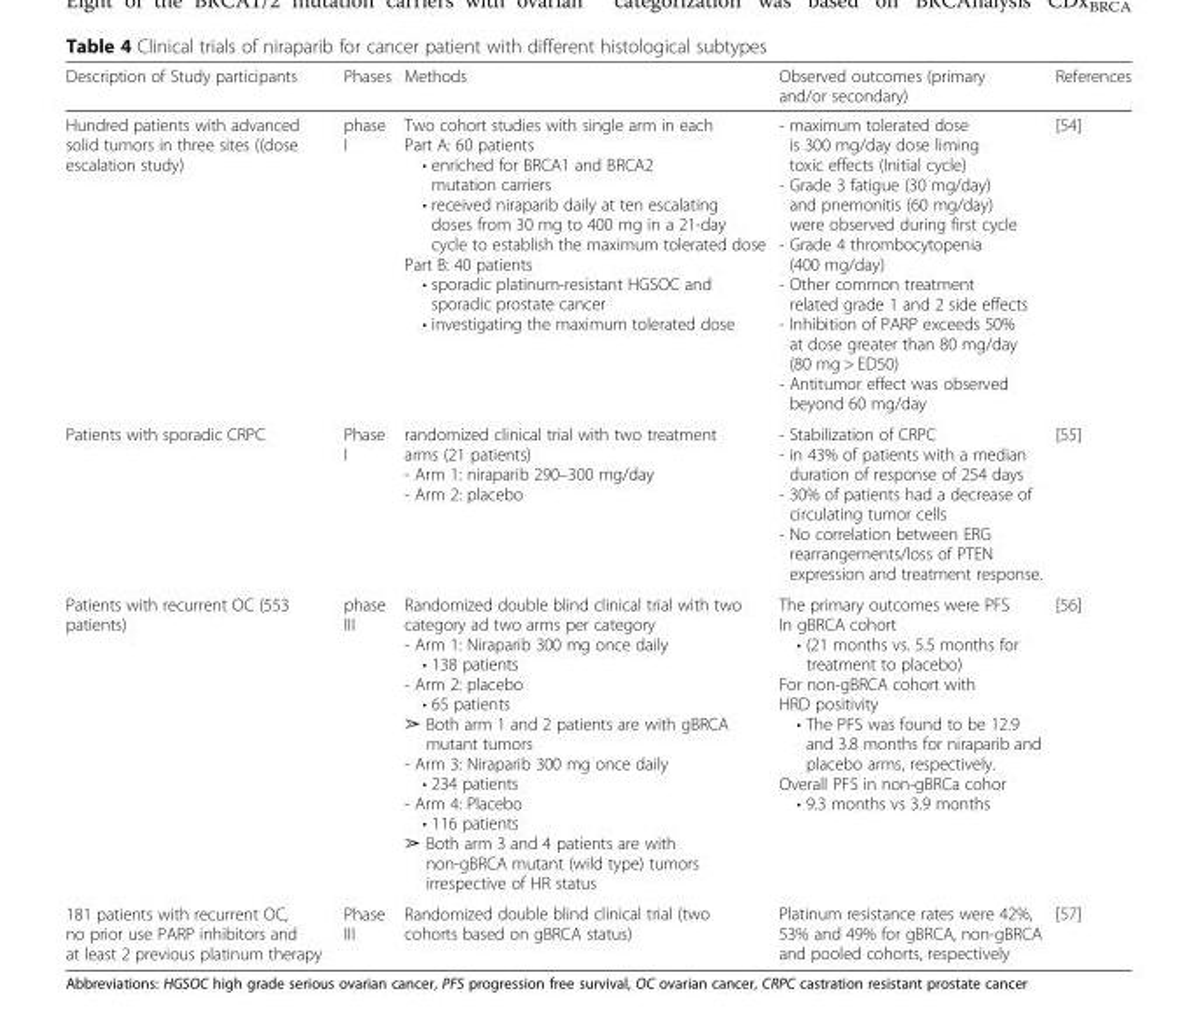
<table><thead><tr><td>Description of Study participants</td><td>Phases</td><td>Methods</td><td>Observed outcomes (primary and/or secondary)</td><td>References</td></tr></thead><tbody><tr><td>Hundred patients with advanced solid tumors in three sites ((dose escalation study)</td><td>phase I</td><td>Two cohort studies with single arm in each Part A: 60 patients • enriched for BRCA1 and BRCA2 mutation carriers • received niraparib daily at ten escalating doses from 30 mg to 400 mg in a 21-day cycle to establish the maximum tolerated dose Part B: 40 patients • sporadic platinum-resistant HGSOC and sporadic prostate cancer • investigating the maximum tolerated dose</td><td>- maximum tolerated dose is 300 mg/day dose liming toxic effects (Initial cycle) - Grade 3 fatigue (30 mg/day) and pnemonitis (60 mg/day) were observed during first cycle - Grade 4 thrombocytopenia (400 mg/day) - Other common treatment related grade 1 and 2 side effects - Inhibition of PARP exceeds 50% at dose greater than 80 mg/day (80 mg &gt; ED50) - Antitumor effect was observed beyond 60 mg/day</td><td>[54]</td></tr><tr><td>Patients with sporadic CRPC</td><td>Phase I</td><td>randomized clinical trial with two treatment arms (21 patients) ‑ Arm 1: niraparib 290–300 mg/day ‑ Arm 2: placebo</td><td>- Stabilization of CRPC - in 43% of patients with a median duration of response of 254 days - 30% of patients had a decrease of circulating tumor cells - No correlation between ERG rearrangements/loss of PTEN expression and treatment response.</td><td>[55]</td></tr><tr><td>Patients with recurrent OC (553 patients)</td><td>phase III</td><td>Randomized double blind clinical trial with two category ad two arms per category - Arm 1: Niraparib 300 mg once daily • 138 patients - Arm 2: placebo • 65 patients ➢ Both arm 1 and 2 patients are with gBRCA mutant tumors - Arm 3: Niraparib 300 mg once daily • 234 patients - Arm 4: Placebo • 116 patients ➢ Both arm 3 and 4 patients are with non-gBRCA mutant (wild type) tumors irrespective of HR status</td><td>The primary outcomes were PFS In gBRCA cohort • (21 months vs. 5.5 months for treatment to placebo) For non-gBRCA cohort with HRD positivity • The PFS was found to be 12.9 and 3.8 months for niraparib and placebo arms, respectively. Overall PFS in non-gBRCa cohor • 9.3 months vs 3.9 months</td><td>[56]</td></tr><tr><td>181 patients with recurrent OC, no prior use PARP inhibitors and at least 2 previous platinum therapy</td><td>Phase III</td><td>Randomized double blind clinical trial (two cohorts based on gBRCA status)</td><td>Platinum resistance rates were 42%, 53% and 49% for gBRCA, non-gBRCA and pooled cohorts, respectively</td><td>[57]</td></tr></tbody></table>